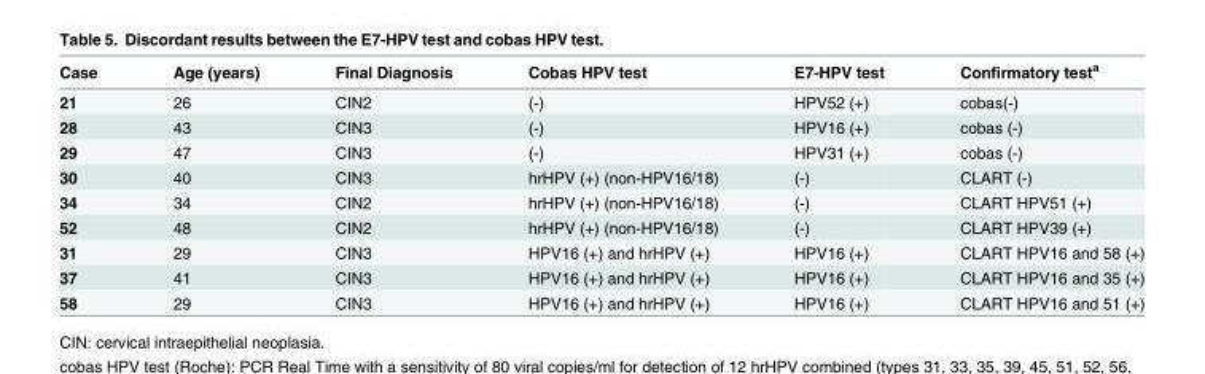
<table><thead><tr><td>Case</td><td>Age (years)</td><td>Final Diagnosis</td><td>Cobas HPV test</td><td>E7-HPV test</td><td>Confirmatory test<sup>a</sup></td></tr></thead><tbody><tr><td>21</td><td>26</td><td>CIN2</td><td>(-)</td><td>HPV52 (+)</td><td>cobas(-)</td></tr><tr><td>28</td><td>43</td><td>CIN3</td><td>(-)</td><td>HPV16 (+)</td><td>cobas (-)</td></tr><tr><td>29</td><td>47</td><td>CIN3</td><td>(-)</td><td>HPV31 (+)</td><td>cobas (-)</td></tr><tr><td>30</td><td>40</td><td>CIN3</td><td>hrHPV (+) (non-HPV16/18)</td><td>(-)</td><td>CLART (-)</td></tr><tr><td>34</td><td>34</td><td>CIN2</td><td>hrHPV (+) (non-HPV16/18)</td><td>(-)</td><td>CLART HPV51 (+)</td></tr><tr><td>52</td><td>48</td><td>CIN2</td><td>hrHPV (+) (non-HPV16/18)</td><td>(-)</td><td>CLART HPV39 (+)</td></tr><tr><td>31</td><td>29</td><td>CIN3</td><td>HPV16 (+) and hrHPV (+)</td><td>HPV16 (+)</td><td>CLART HPV16 and 58 (+)</td></tr><tr><td>37</td><td>41</td><td>CIN3</td><td>HPV16 (+) and hrHPV (+)</td><td>HPV16 (+)</td><td>CLART HPV16 and 35 (+)</td></tr><tr><td>58</td><td>29</td><td>CIN3</td><td>HPV16 (+) and hrHPV (+)</td><td>HPV16 (+)</td><td>CLART HPV16 and 51 (+)</td></tr></tbody></table>